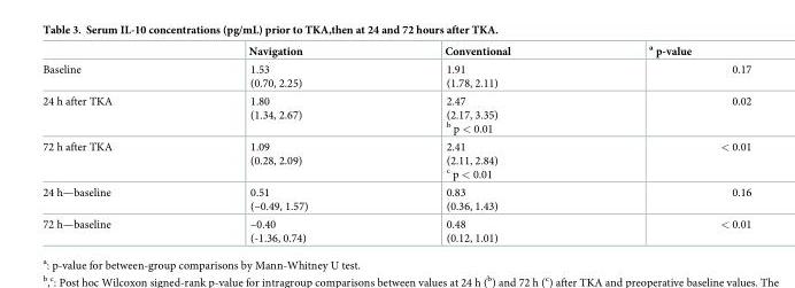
<table><thead><tr><td></td><td>Navigation</td><td>Conventional</td><td><sup>a</sup> p-value</td></tr></thead><tbody><tr><td>Baseline</td><td>1.53 (0.70, 2.25)</td><td>1.91 (1.78, 2.11)</td><td>0.17</td></tr><tr><td>24 h after TKA</td><td>1.80 (1.34, 2.67)</td><td>2.47 (2.17, 3.35) <sup>b</sup> p &lt; 0.01</td><td>0.02</td></tr><tr><td>72 h after TKA</td><td>1.09 (0.28, 2.09)</td><td>2.41 (2.11, 2.84) <sup>c</sup> p &lt; 0.01</td><td>&lt; 0.01</td></tr><tr><td>24 h—baseline</td><td>0.51 (–0.49, 1.57)</td><td>0.83 (0.36, 1.43)</td><td>0.16</td></tr><tr><td>72 h—baseline</td><td>–0.40 (-1.36, 0.74)</td><td>0.48 (0.12, 1.01)</td><td>&lt; 0.01</td></tr></tbody></table>